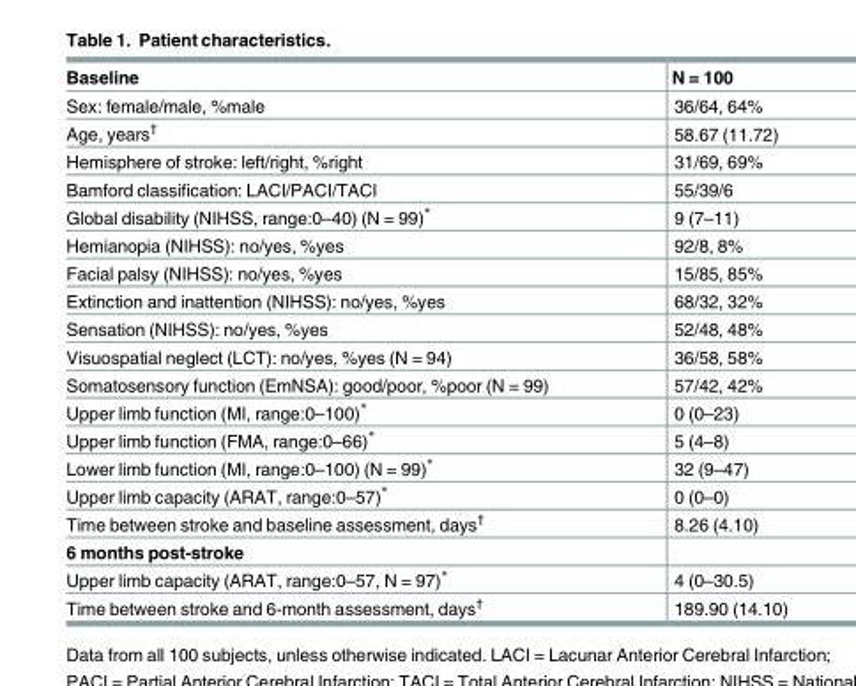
<table><thead><tr><td>Baseline</td><td>N = 100</td></tr></thead><tbody><tr><td>Sex: female/male, %male</td><td>36/64, 64%</td></tr><tr><td>Age, years<sup>†</sup></td><td>58.67 (11.72)</td></tr><tr><td>Hemisphere of stroke: left/right, %right</td><td>31/69, 69%</td></tr><tr><td>Bamford classification: LACI/PACI/TACI</td><td>55/39/6</td></tr><tr><td>Global disability (NIHSS, range:0–40) (N = 99)*</td><td>9 (7–11)</td></tr><tr><td>Hemianopia (NIHSS): no/yes, %yes</td><td>92/8, 8%</td></tr><tr><td>Facial palsy (NIHSS): no/yes, %yes</td><td>15/85, 85%</td></tr><tr><td>Extinction and inattention (NIHSS): no/yes, %yes</td><td>68/32, 32%</td></tr><tr><td>Sensation (NIHSS): no/yes, %yes</td><td>52/48, 48%</td></tr><tr><td>Visuospatial neglect (LCT): no/yes, %yes (N = 94)</td><td>36/58, 58%</td></tr><tr><td>Somatosensory function (EmNSA): good/poor, %poor (N = 99)</td><td>57/42, 42%</td></tr><tr><td>Upper limb function (MI, range:0–100)*</td><td>0 (0–23)</td></tr><tr><td>Upper limb function (FMA, range:0–66)*</td><td>5 (4–8)</td></tr><tr><td>Lower limb function (MI, range:0–100) (N = 99)*</td><td>32 (9–47)</td></tr><tr><td>Upper limb capacity (ARAT, range:0–57)*</td><td>0 (0–0)</td></tr><tr><td>Time between stroke and baseline assessment, days<sup>†</sup></td><td>8.26 (4.10)</td></tr><tr><td colspan="2">6 months post-stroke</td></tr><tr><td>Upper limb capacity (ARAT, range:0–57, N = 97)*</td><td>4 (0–30.5)</td></tr><tr><td>Time between stroke and 6-month assessment, days<sup>†</sup></td><td>189.90 (14.10)</td></tr></tbody></table>